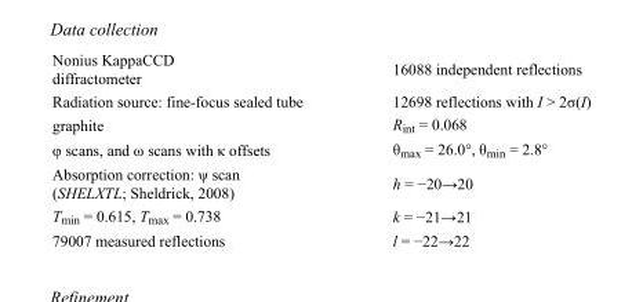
<table><tbody><tr><td>Nonius KappaCCD diffractometer</td><td>16088 independent reflections</td></tr><tr><td>Radiation source: fine-focus sealed tube</td><td>12698 reflections with I &gt; 2σ(I)</td></tr><tr><td>graphite</td><td>R<sub>int</sub> = 0.068</td></tr><tr><td>φ scans, and ω scans with κ offsets</td><td>θ<sub>max</sub> = 26.0°, θ<sub>min</sub> = 2.8°</td></tr><tr><td>Absorption correction: ψ scan (SHELXTL; Sheldrick, 2008)</td><td>h = −20→20</td></tr><tr><td>T<sub>min</sub> = 0.615, T<sub>max</sub> = 0.738</td><td>k = −21→21</td></tr><tr><td>79007 measured reflections</td><td>l = −22→22</td></tr></tbody></table>